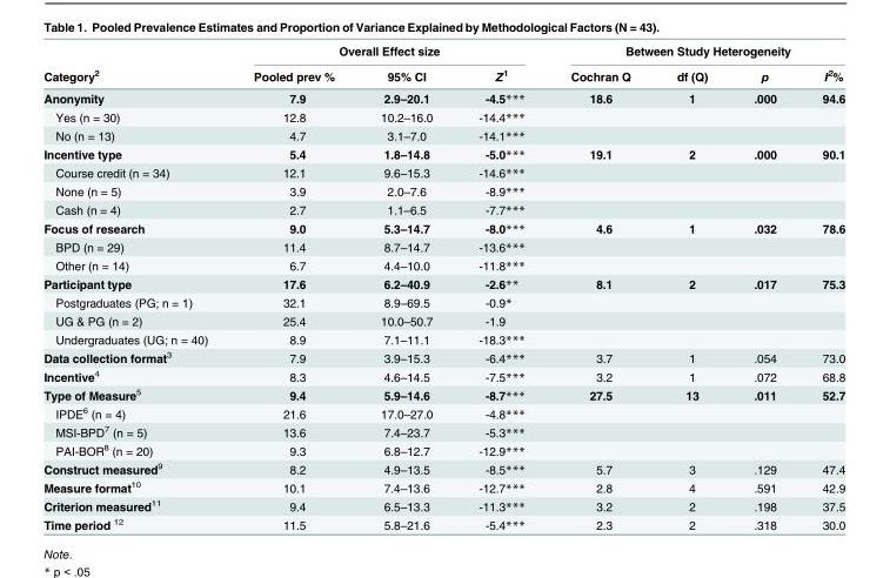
<table><thead><tr><td rowspan="2">Category<sup>2</sup></td><td colspan="3">Overall Effect size</td><td colspan="4">Between Study Heterogeneity</td></tr><tr><td>Pooled prev %</td><td>95% CI</td><td>Z<sup>1</sup></td><td>Cochran Q</td><td>df (Q)</td><td>p</td><td>I<sup>2</sup>%</td></tr></thead><tbody><tr><td>Anonymity</td><td>7.9</td><td>2.9–20.1</td><td>-4.5***</td><td>18.6</td><td>1</td><td>.000</td><td>94.6</td></tr><tr><td>Yes (n = 30)</td><td>12.8</td><td>10.2–16.0</td><td>-14.4***</td><td></td><td></td><td></td><td></td></tr><tr><td>No (n = 13)</td><td>4.7</td><td>3.1–7.0</td><td>-14.1***</td><td></td><td></td><td></td><td></td></tr><tr><td>Incentive type</td><td>5.4</td><td>1.8–14.8</td><td>-5.0***</td><td>19.1</td><td>2</td><td>.000</td><td>90.1</td></tr><tr><td>Course credit (n = 34)</td><td>12.1</td><td>9.6–15.3</td><td>-14.6***</td><td></td><td></td><td></td><td></td></tr><tr><td>None (n = 5)</td><td>3.9</td><td>2.0–7.6</td><td>-8.9***</td><td></td><td></td><td></td><td></td></tr><tr><td>Cash (n = 4)</td><td>2.7</td><td>1.1–6.5</td><td>-7.7***</td><td></td><td></td><td></td><td></td></tr><tr><td>Focus of research</td><td>9.0</td><td>5.3–14.7</td><td>-8.0***</td><td>4.6</td><td>1</td><td>.032</td><td>78.6</td></tr><tr><td>BPD (n = 29)</td><td>11.4</td><td>8.7–14.7</td><td>-13.6***</td><td></td><td></td><td></td><td></td></tr><tr><td>Other (n = 14)</td><td>6.7</td><td>4.4–10.0</td><td>-11.8***</td><td></td><td></td><td></td><td></td></tr><tr><td>Participant type</td><td>17.6</td><td>6.2–40.9</td><td>-2.6**</td><td>8.1</td><td>2</td><td>.017</td><td>75.3</td></tr><tr><td>Postgraduates (PG; n = 1)</td><td>32.1</td><td>8.9–69.5</td><td>-0.9*</td><td></td><td></td><td></td><td></td></tr><tr><td>UG &amp; PG (n = 2)</td><td>25.4</td><td>10.0–50.7</td><td>-1.9</td><td></td><td></td><td></td><td></td></tr><tr><td>Undergraduates (UG; n = 40)</td><td>8.9</td><td>7.1–11.1</td><td>-18.3***</td><td></td><td></td><td></td><td></td></tr><tr><td>Data collection format<sup>3</sup></td><td>7.9</td><td>3.9–15.3</td><td>-6.4***</td><td>3.7</td><td>1</td><td>.054</td><td>73.0</td></tr><tr><td>Incentive<sup>4</sup></td><td>8.3</td><td>4.6–14.5</td><td>-7.5***</td><td>3.2</td><td>1</td><td>.072</td><td>68.8</td></tr><tr><td>Type of Measure<sup>5</sup></td><td>9.4</td><td>5.9–14.6</td><td>-8.7***</td><td>27.5</td><td>13</td><td>.011</td><td>52.7</td></tr><tr><td>IPDE<sup>6</sup> (n = 4)</td><td>21.6</td><td>17.0–27.0</td><td>-4.8***</td><td></td><td></td><td></td><td></td></tr><tr><td>MSI-BPD<sup>7</sup> (n = 5)</td><td>13.6</td><td>7.4–23.7</td><td>-5.3***</td><td></td><td></td><td></td><td></td></tr><tr><td>PAI-BOR<sup>8</sup> (n = 20)</td><td>9.3</td><td>6.8–12.7</td><td>-12.9***</td><td></td><td></td><td></td><td></td></tr><tr><td>Construct measured<sup>9</sup></td><td>8.2</td><td>4.9–13.5</td><td>-8.5***</td><td>5.7</td><td>3</td><td>.129</td><td>47.4</td></tr><tr><td>Measure format<sup>10</sup></td><td>10.1</td><td>7.4–13.6</td><td>-12.7***</td><td>2.8</td><td>4</td><td>.591</td><td>42.9</td></tr><tr><td>Criterion measured<sup>11</sup></td><td>9.4</td><td>6.5–13.3</td><td>-11.3***</td><td>3.2</td><td>2</td><td>.198</td><td>37.5</td></tr><tr><td>Time period <sup>12</sup></td><td>11.5</td><td>5.8–21.6</td><td>-5.4***</td><td>2.3</td><td>2</td><td>.318</td><td>30.0</td></tr></tbody></table>